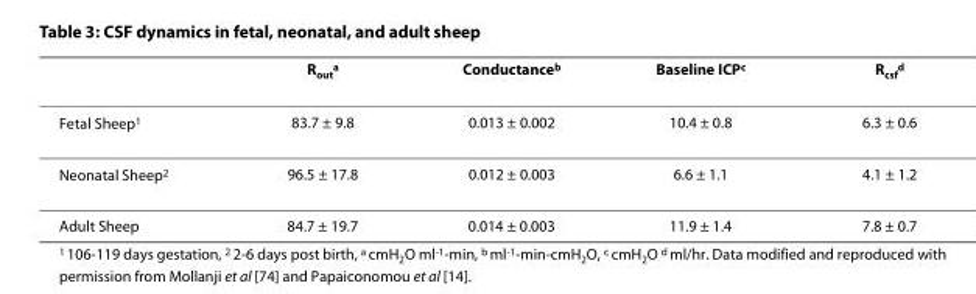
<table><thead><tr><td></td><td>R<sub>out</sub><sup>a</sup></td><td>Conductance<sup>b</sup></td><td>Baseline ICP<sup>c</sup></td><td>R<sub>csf</sub><sup>d</sup></td></tr></thead><tbody><tr><td>Fetal Sheep<sup>1</sup></td><td>83.7 ± 9.8</td><td>0.013 ± 0.002</td><td>10.4 ± 0.8</td><td>6.3 ± 0.6</td></tr><tr><td>Neonatal Sheep<sup>2</sup></td><td>96.5 ± 17.8</td><td>0.012 ± 0.003</td><td>6.6 ± 1.1</td><td>4.1 ± 1.2</td></tr><tr><td>Adult Sheep</td><td>84.7 ± 19.7</td><td>0.014 ± 0.003</td><td>11.9 ± 1.4</td><td>7.8 ± 0.7</td></tr></tbody></table>